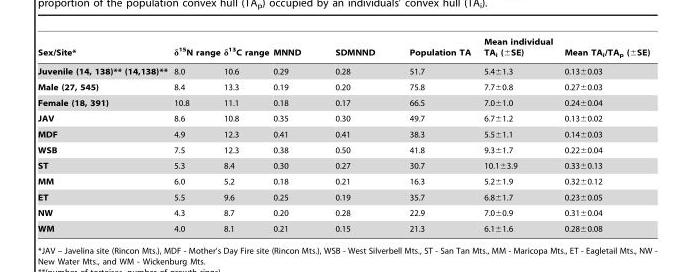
<table><thead><tr><td>Sex/Site*</td><td>δ<sup>15</sup>N range</td><td>δ<sup>13</sup>C range</td><td>MNND</td><td>SDMNND</td><td>Population TA</td><td>Mean individual TA<sub>i</sub> (±SE)</td><td>Mean TA<sub>i</sub>/TA<sub>p</sub> (±SE)</td></tr></thead><tbody><tr><td>Juvenile (14, 138)** (14,138)**</td><td>8.0</td><td>10.6</td><td>0.29</td><td>0.28</td><td>51.7</td><td>5.4±1.3</td><td>0.13±0.03</td></tr><tr><td>Male (27, 545)</td><td>8.4</td><td>13.3</td><td>0.19</td><td>0.20</td><td>75.8</td><td>7.7±0.8</td><td>0.27±0.03</td></tr><tr><td>Female (18, 391)</td><td>10.8</td><td>11.1</td><td>0.18</td><td>0.17</td><td>66.5</td><td>7.0±1.0</td><td>0.24±0.04</td></tr><tr><td>JAV</td><td>8.6</td><td>10.8</td><td>0.35</td><td>0.30</td><td>49.7</td><td>6.7±1.2</td><td>0.13±0.02</td></tr><tr><td>MDF</td><td>4.9</td><td>12.3</td><td>0.41</td><td>0.41</td><td>38.3</td><td>5.5±1.1</td><td>0.14±0.03</td></tr><tr><td>WSB</td><td>7.5</td><td>12.3</td><td>0.38</td><td>0.50</td><td>41.8</td><td>9.3±1.7</td><td>0.22±0.04</td></tr><tr><td>ST</td><td>5.3</td><td>8.4</td><td>0.30</td><td>0.27</td><td>30.7</td><td>10.1±3.9</td><td>0.33±0.13</td></tr><tr><td>MM</td><td>6.0</td><td>5.2</td><td>0.18</td><td>0.21</td><td>16.3</td><td>5.2±1.9</td><td>0.32±0.12</td></tr><tr><td>ET</td><td>5.5</td><td>9.6</td><td>0.25</td><td>0.19</td><td>35.7</td><td>6.8±1.7</td><td>0.23±0.05</td></tr><tr><td>NW</td><td>4.3</td><td>8.7</td><td>0.20</td><td>0.28</td><td>22.9</td><td>7.0±0.9</td><td>0.31±0.04</td></tr><tr><td>WM</td><td>4.0</td><td>8.1</td><td>0.21</td><td>0.15</td><td>21.3</td><td>6.1±1.6</td><td>0.28±0.08</td></tr></tbody></table>